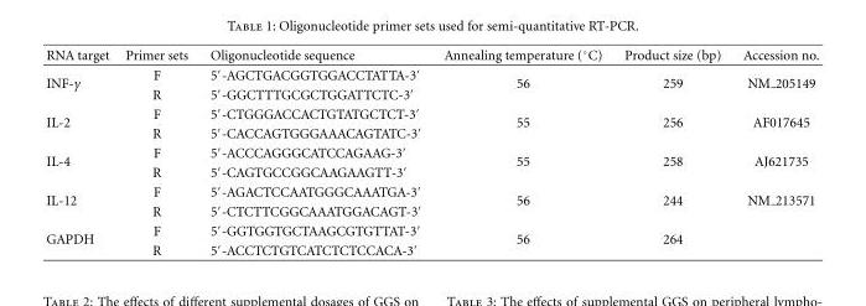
<table><thead><tr><td>RNA target</td><td>Primer sets</td><td>Oligonucleotide sequence</td><td>Annealing temperature (◦C)</td><td>Product size (bp)</td><td>Accession no.</td></tr></thead><tbody><tr><td rowspan="2">INF-γ</td><td>F</td><td>5′-AGCTGACGGTGGACCTATTA-3′</td><td rowspan="2">56</td><td rowspan="2">259</td><td rowspan="2">NM 205149</td></tr><tr><td>R</td><td>5′-GGCTTTGCGCTGGATTCTC-3′</td></tr><tr><td rowspan="2">IL-2</td><td>F</td><td>5′-CTGGGACCACTGTATGCTCT-3′</td><td rowspan="2">55</td><td rowspan="2">256</td><td rowspan="2">AF017645</td></tr><tr><td>R</td><td>5′-CACCAGTGGGAAACAGTATC-3′</td></tr><tr><td rowspan="2">IL-4</td><td>F</td><td>5′-ACCCAGGGCATCCAGAAG-3′</td><td rowspan="2">55</td><td rowspan="2">258</td><td rowspan="2">AJ621735</td></tr><tr><td>R</td><td>5′-CAGTGCCGGCAAGAAGTT-3′</td></tr><tr><td rowspan="2">IL-12</td><td>F</td><td>5′-AGACTCCAATGGGCAAATGA-3′</td><td rowspan="2">56</td><td rowspan="2">244</td><td rowspan="2">NM 213571</td></tr><tr><td>R</td><td>5′-CTCTTCGGCAAATGGACAGT-3′</td></tr><tr><td rowspan="2">GAPDH</td><td>F</td><td>5′-GGTGGTGCTAAGCGTGTTAT-3′</td><td rowspan="2">56</td><td rowspan="2">264</td><td></td></tr><tr><td>R</td><td>5′-ACCTCTGTCATCTCTCCACA-3′</td><td></td></tr></tbody></table>